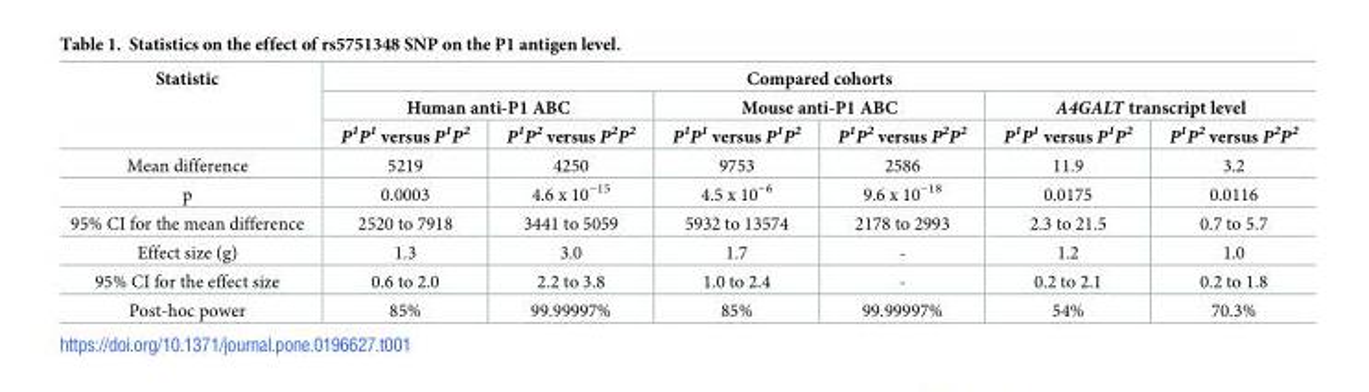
<table><thead><tr><td rowspan="3">Statistic</td><td colspan="6">Compared cohorts</td></tr><tr><td colspan="2">Human anti-P1 ABC</td><td colspan="2">Mouse anti-P1 ABC</td><td colspan="2">A4GALT transcript level</td></tr><tr><td>P<sup>1</sup>P<sup>1</sup> versus P<sup>1</sup>P<sup>2</sup></td><td>P<sup>1</sup>P<sup>2</sup> versus P<sup>2</sup>P<sup>2</sup></td><td>P<sup>1</sup>P<sup>1</sup> versus P<sup>1</sup>P<sup>2</sup></td><td>P<sup>1</sup>P<sup>2</sup> versus P<sup>2</sup>P<sup>2</sup></td><td>P<sup>1</sup>P<sup>1</sup> versus P<sup>1</sup>P<sup>2</sup></td><td>P<sup>1</sup>P<sup>2</sup> versus P<sup>2</sup>P<sup>2</sup></td></tr></thead><tbody><tr><td>Mean difference</td><td>5219</td><td>4250</td><td>9753</td><td>2586</td><td>11.9</td><td>3.2</td></tr><tr><td>p</td><td>0.0003</td><td>4.6 x 10<sup>−15</sup></td><td>4.5 x 10<sup>−6</sup></td><td>9.6 x 10<sup>−18</sup></td><td>0.0175</td><td>0.0116</td></tr><tr><td>95% CI for the mean difference</td><td>2520 to 7918</td><td>3441 to 5059</td><td>5932 to 13574</td><td>2178 to 2993</td><td>2.3 to 21.5</td><td>0.7 to 5.7</td></tr><tr><td>Effect size (g)</td><td>1.3</td><td>3.0</td><td>1.7</td><td>-</td><td>1.2</td><td>1.0</td></tr><tr><td>95% CI for the effect size</td><td>0.6 to 2.0</td><td>2.2 to 3.8</td><td>1.0 to 2.4</td><td>-</td><td>0.2 to 2.1</td><td>0.2 to 1.8</td></tr><tr><td>Post-hoc power</td><td>85%</td><td>99.99997%</td><td>85%</td><td>99.99997%</td><td>54%</td><td>70.3%</td></tr></tbody></table>